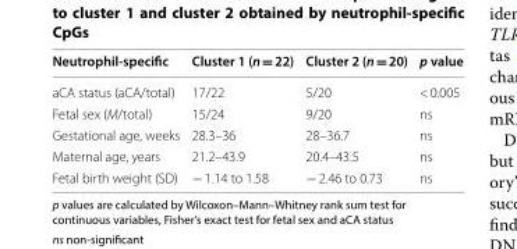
<table><thead><tr><td>Neutrophil-specific</td><td>Cluster 1 (n = 22)</td><td>Cluster 2 (n = 20)</td><td>p value</td></tr></thead><tbody><tr><td>aCA status (aCA/total)</td><td>17/22</td><td>5/20</td><td>&lt; 0.005</td></tr><tr><td>Fetal sex (M/total)</td><td>15/24</td><td>9/20</td><td>ns</td></tr><tr><td>Gestational age, weeks</td><td>28.3–36</td><td>28–36.7</td><td>ns</td></tr><tr><td>Maternal age, years</td><td>21.2–43.9</td><td>20.4–43.5</td><td>ns</td></tr><tr><td>Fetal birth weight (SD)</td><td>− 1.14 to 1.58</td><td>− 2.46 to 0.73</td><td>ns</td></tr></tbody></table>